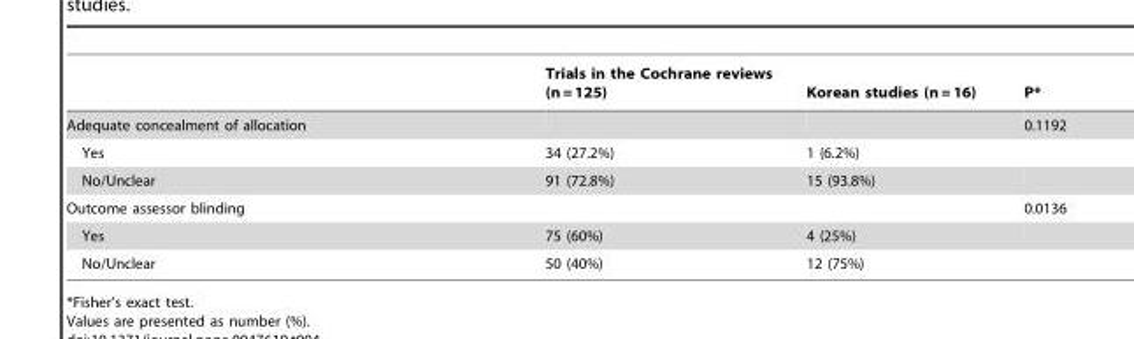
<table><thead><tr><td></td><td>Trials in the Cochrane reviews (n = 125)</td><td>Korean studies (n = 16)</td><td>P*</td></tr></thead><tbody><tr><td>Adequate concealment of allocation</td><td></td><td></td><td>0.1192</td></tr><tr><td>Yes</td><td>34 (27.2%)</td><td>1 (6.2%)</td><td></td></tr><tr><td>No/Unclear</td><td>91 (72.8%)</td><td>15 (93.8%)</td><td></td></tr><tr><td>Outcome assessor blinding</td><td></td><td></td><td>0.0136</td></tr><tr><td>Yes</td><td>75 (60%)</td><td>4 (25%)</td><td></td></tr><tr><td>No/Unclear</td><td>50 (40%)</td><td>12 (75%)</td><td></td></tr></tbody></table>